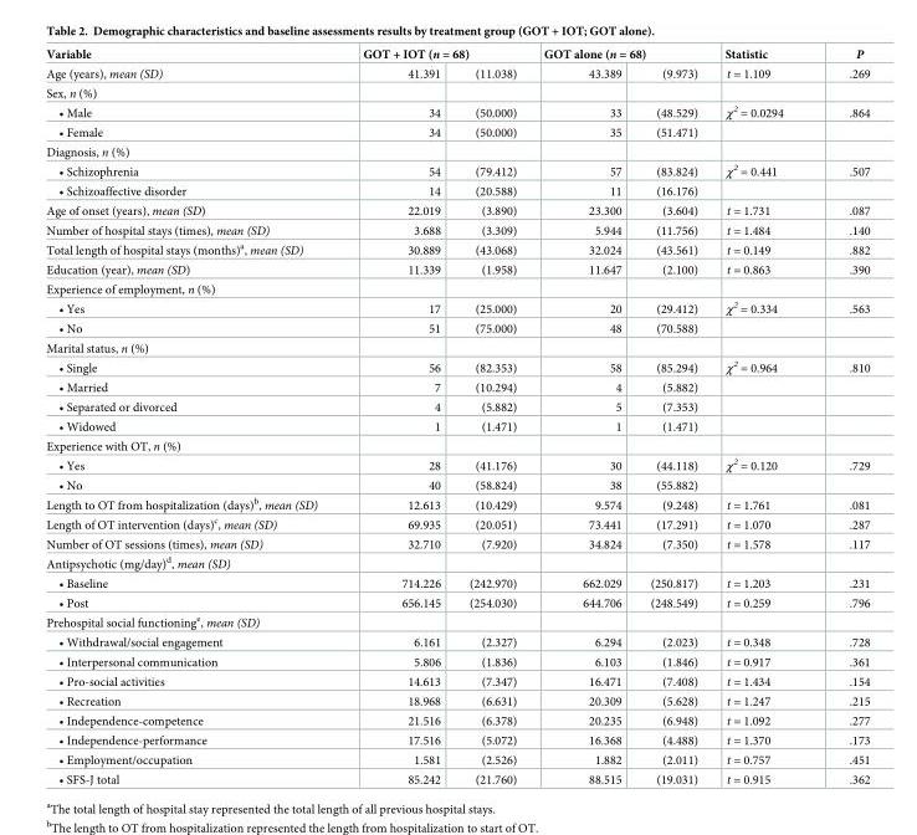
<table><thead><tr><td rowspan="2">Variable Age (years), mean (SD)</td><td colspan="2">GOT + IOT (n = 68)</td><td colspan="2">GOT alone (n = 68)</td><td rowspan="2">Statistic t = 1.109</td><td rowspan="2">P .269</td></tr><tr><td>41.391</td><td>(11.038)</td><td>43.389</td><td>(9.973)</td></tr></thead><tbody><tr><td colspan="7">Sex, n (%)</td></tr><tr><td>• Male</td><td>34</td><td>(50.000)</td><td>33</td><td>(48.529)</td><td>χ<sup>2</sup> = 0.0294</td><td>.864</td></tr><tr><td>• Female</td><td>34</td><td>(50.000)</td><td>35</td><td>(51.471)</td><td></td><td></td></tr><tr><td colspan="7">Diagnosis, n (%)</td></tr><tr><td>• Schizophrenia</td><td>54</td><td>(79.412)</td><td>57</td><td>(83.824)</td><td>χ<sup>2</sup> = 0.441</td><td>.507</td></tr><tr><td>• Schizoaffective disorder</td><td>14</td><td>(20.588)</td><td>11</td><td>(16.176)</td><td></td><td></td></tr><tr><td>Age of onset (years), mean (SD)</td><td>22.019</td><td>(3.890)</td><td>23.300</td><td>(3.604)</td><td>t = 1.731</td><td>.087</td></tr><tr><td>Number of hospital stays (times), mean (SD)</td><td>3.688</td><td>(3.309)</td><td>5.944</td><td>(11.756)</td><td>t = 1.484</td><td>.140</td></tr><tr><td>Total length of hospital stays (months)<sup>a</sup>, mean (SD)</td><td>30.889</td><td>(43.068)</td><td>32.024</td><td>(43.561)</td><td>t = 0.149</td><td>.882</td></tr><tr><td>Education (year), mean (SD)</td><td>11.339</td><td>(1.958)</td><td>11.647</td><td>(2.100)</td><td>t = 0.863</td><td>.390</td></tr><tr><td colspan="7">Experience of employment, n (%)</td></tr><tr><td>• Yes</td><td>17</td><td>(25.000)</td><td>20</td><td>(29.412)</td><td>χ<sup>2</sup> = 0.334</td><td>.563</td></tr><tr><td>• No</td><td>51</td><td>(75.000)</td><td>48</td><td>(70.588)</td><td></td><td></td></tr><tr><td colspan="7">Marital status, n (%)</td></tr><tr><td>• Single</td><td>56</td><td>(82.353)</td><td>58</td><td>(85.294)</td><td>χ<sup>2</sup> = 0.964</td><td>.810</td></tr><tr><td>• Married</td><td>7</td><td>(10.294)</td><td>4</td><td>(5.882)</td><td></td><td></td></tr><tr><td>• Separated or divorced</td><td>4</td><td>(5.882)</td><td>5</td><td>(7.353)</td><td></td><td></td></tr><tr><td>• Widowed</td><td>1</td><td>(1.471)</td><td>1</td><td>(1.471)</td><td></td><td></td></tr><tr><td colspan="7">Experience with OT, n (%)</td></tr><tr><td>• Yes</td><td>28</td><td>(41.176)</td><td>30</td><td>(44.118)</td><td>χ<sup>2</sup> = 0.120</td><td>.729</td></tr><tr><td>• No</td><td>40</td><td>(58.824)</td><td>38</td><td>(55.882)</td><td></td><td></td></tr><tr><td>Length to OT from hospitalization (days)<sup>b</sup>, mean (SD)</td><td>12.613</td><td>(10.429)</td><td>9.574</td><td>(9.248)</td><td>t = 1.761</td><td>.081</td></tr><tr><td>Length of OT intervention (days)<sup>c</sup>, mean (SD)</td><td>69.935</td><td>(20.051)</td><td>73.441</td><td>(17.291)</td><td>t = 1.070</td><td>.287</td></tr><tr><td>Number of OT sessions (times), mean (SD)</td><td>32.710</td><td>(7.920)</td><td>34.824</td><td>(7.350)</td><td>t = 1.578</td><td>.117</td></tr><tr><td colspan="7">Antipsychotic (mg/day)<sup>d</sup>, mean (SD)</td></tr><tr><td>• Baseline</td><td>714.226</td><td>(242.970)</td><td>662.029</td><td>(250.817)</td><td>t = 1.203</td><td>.231</td></tr><tr><td>• Post</td><td>656.145</td><td>(254.030)</td><td>644.706</td><td>(248.549)</td><td>t = 0.259</td><td>.796</td></tr><tr><td colspan="7">Prehospital social functioning<sup>e</sup>, mean (SD)</td></tr><tr><td>• Withdrawal/social engagement</td><td>6.161</td><td>(2.327)</td><td>6.294</td><td>(2.023)</td><td>t = 0.348</td><td>.728</td></tr><tr><td>• Interpersonal communication</td><td>5.806</td><td>(1.836)</td><td>6.103</td><td>(1.846)</td><td>t = 0.917</td><td>.361</td></tr><tr><td>• Pro-social activities</td><td>14.613</td><td>(7.347)</td><td>16.471</td><td>(7.408)</td><td>t = 1.434</td><td>.154</td></tr><tr><td>• Recreation</td><td>18.968</td><td>(6.631)</td><td>20.309</td><td>(5.628)</td><td>t = 1.247</td><td>.215</td></tr><tr><td>• Independence-competence</td><td>21.516</td><td>(6.378)</td><td>20.235</td><td>(6.948)</td><td>t = 1.092</td><td>.277</td></tr><tr><td>• Independence-performance</td><td>17.516</td><td>(5.072)</td><td>16.368</td><td>(4.488)</td><td>t = 1.370</td><td>.173</td></tr><tr><td>• Employment/occupation</td><td>1.581</td><td>(2.526)</td><td>1.882</td><td>(2.011)</td><td>t = 0.757</td><td>.451</td></tr><tr><td>• SFS-J total</td><td>85.242</td><td>(21.760)</td><td>88.515</td><td>(19.031)</td><td>t = 0.915</td><td>.362</td></tr></tbody></table>